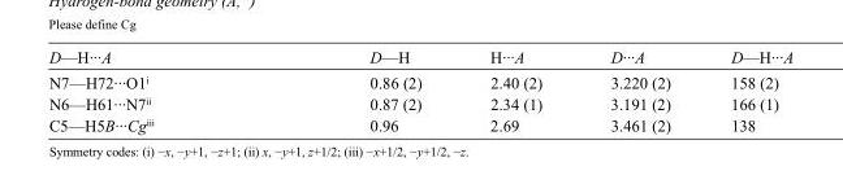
<table><tbody><tr><td>D—H···A</td><td>D—H</td><td>H···A</td><td>D···A</td><td>D—H···A</td></tr><tr><td>N7—H72···O1<sup>i</sup></td><td>0.86 (2)</td><td>2.40 (2)</td><td>3.220 (2)</td><td>158 (2)</td></tr><tr><td>N6—H61···N7<sup>ii</sup></td><td>0.87 (2)</td><td>2.34 (1)</td><td>3.191 (2)</td><td>166 (1)</td></tr><tr><td>C5—H5B···Cg<sup>iii</sup></td><td>0.96</td><td>2.69</td><td>3.461 (2)</td><td>138</td></tr></tbody></table>